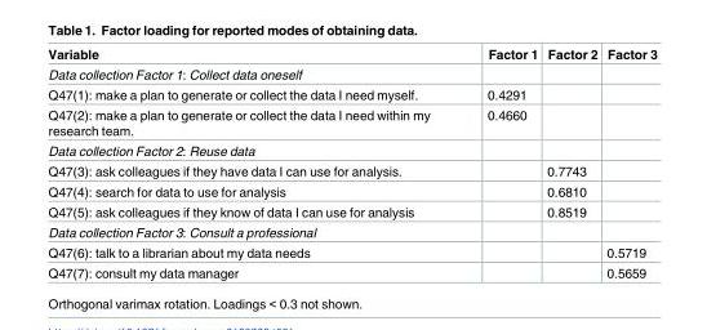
<table><thead><tr><td>Variable</td><td>Factor 1</td><td>Factor 2</td><td>Factor 3</td></tr></thead><tbody><tr><td colspan="4">Data collection Factor 1: Collect data oneself</td></tr><tr><td>Q47(1): make a plan to generate or collect the data I need myself.</td><td>0.4291</td><td></td><td></td></tr><tr><td>Q47(2): make a plan to generate or collect the data I need within my research team.</td><td>0.4660</td><td></td><td></td></tr><tr><td colspan="4">Data collection Factor 2: Reuse data</td></tr><tr><td>Q47(3): ask colleagues if they have data I can use for analysis.</td><td></td><td>0.7743</td><td></td></tr><tr><td>Q47(4): search for data to use for analysis</td><td></td><td>0.6810</td><td></td></tr><tr><td>Q47(5): ask colleagues if they know of data I can use for analysis</td><td></td><td>0.8519</td><td></td></tr><tr><td colspan="4">Data collection Factor 3: Consult a professional</td></tr><tr><td>Q47(6): talk to a librarian about my data needs</td><td></td><td></td><td>0.5719</td></tr><tr><td>Q47(7): consult my data manager</td><td></td><td></td><td>0.5659</td></tr></tbody></table>